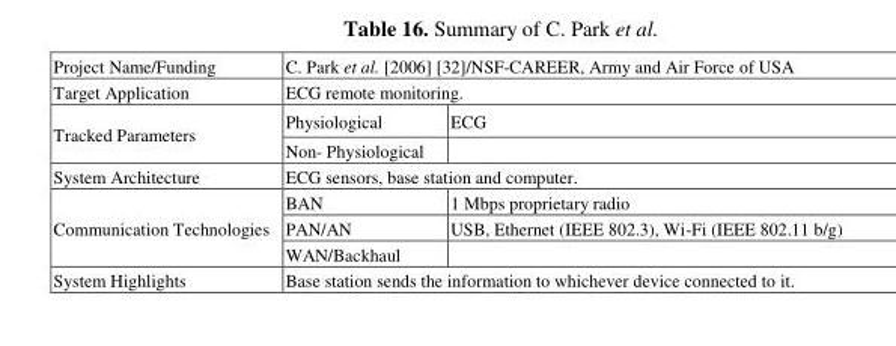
<table><tbody><tr><td>Project Name/Funding</td><td colspan="2">C. Park et al. [2006] [32]/NSF-CAREER, Army and Air Force of USA</td></tr><tr><td>Target Application</td><td colspan="2">ECG remote monitoring.</td></tr><tr><td rowspan="2">Tracked Parameters</td><td>Physiological</td><td>ECG</td></tr><tr><td>Non- Physiological</td><td></td></tr><tr><td>System Architecture</td><td colspan="2">ECG sensors, base station and computer.</td></tr><tr><td rowspan="3">Communication Technologies</td><td>BAN</td><td>1 Mbps proprietary radio</td></tr><tr><td>PAN/AN</td><td>USB, Ethernet (IEEE 802.3), Wi-Fi (IEEE 802.11 b/g)</td></tr><tr><td>WAN/Backhaul</td><td></td></tr><tr><td>System Highlights</td><td colspan="2">Base station sends the information to whichever device connected to it.</td></tr></tbody></table>